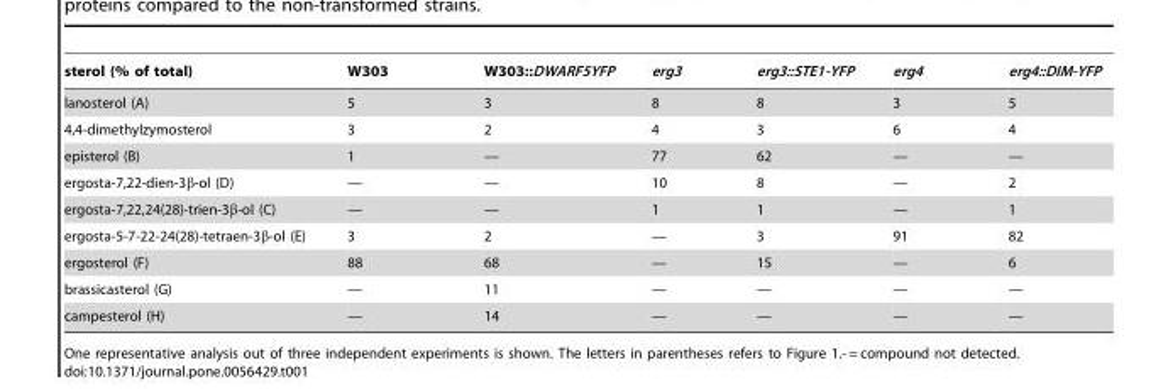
<table><thead><tr><td>sterol (% of total)</td><td>W303</td><td>W303::DWARF5YFP</td><td>erg3</td><td>erg3::STE1-YFP</td><td>erg4</td><td>erg4::DIM-YFP</td></tr></thead><tbody><tr><td>lanosterol (A)</td><td>5</td><td>3</td><td>8</td><td>8</td><td>3</td><td>5</td></tr><tr><td>4,4-dimethylzymosterol</td><td>3</td><td>2</td><td>4</td><td>3</td><td>6</td><td>4</td></tr><tr><td>episterol (B)</td><td>1</td><td>—</td><td>77</td><td>62</td><td>—</td><td>—</td></tr><tr><td>ergosta-7,22-dien-3β-ol (D)</td><td>—</td><td>—</td><td>10</td><td>8</td><td>—</td><td>2</td></tr><tr><td>ergosta-7,22,24(28)-trien-3β-ol (C)</td><td>—</td><td>—</td><td>1</td><td>1</td><td>—</td><td>1</td></tr><tr><td>ergosta-5-7-22-24(28)-tetraen-3β-ol (E)</td><td>3</td><td>2</td><td>—</td><td>3</td><td>91</td><td>82</td></tr><tr><td>ergosterol (F)</td><td>88</td><td>68</td><td>—</td><td>15</td><td>—</td><td>6</td></tr><tr><td>brassicasterol (G)</td><td>—</td><td>11</td><td>—</td><td>—</td><td>—</td><td>—</td></tr><tr><td>campesterol (H)</td><td>—</td><td>14</td><td>—</td><td>—</td><td>—</td><td>—</td></tr></tbody></table>